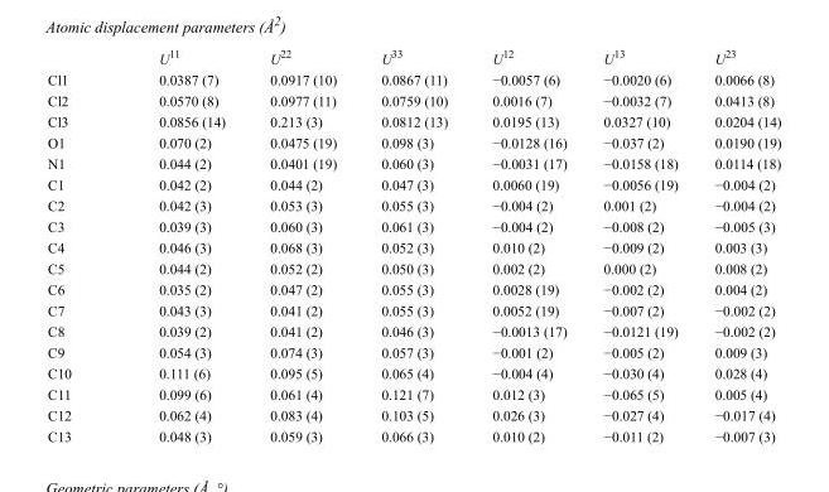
<table><thead><tr><td></td><td>U<sup>11</sup></td><td>U<sup>22</sup></td><td>U<sup>33</sup></td><td>U<sup>12</sup></td><td>U<sup>13</sup></td><td>U<sup>23</sup></td></tr></thead><tbody><tr><td>Cl1</td><td>0.0387 (7)</td><td>0.0917 (10)</td><td>0.0867 (11)</td><td>−0.0057 (6)</td><td>−0.0020 (6)</td><td>0.0066 (8)</td></tr><tr><td>Cl2</td><td>0.0570 (8)</td><td>0.0977 (11)</td><td>0.0759 (10)</td><td>0.0016 (7)</td><td>−0.0032 (7)</td><td>0.0413 (8)</td></tr><tr><td>Cl3</td><td>0.0856 (14)</td><td>0.213 (3)</td><td>0.0812 (13)</td><td>0.0195 (13)</td><td>0.0327 (10)</td><td>0.0204 (14)</td></tr><tr><td>O1</td><td>0.070 (2)</td><td>0.0475 (19)</td><td>0.098 (3)</td><td>−0.0128 (16)</td><td>−0.037 (2)</td><td>0.0190 (19)</td></tr><tr><td>N1</td><td>0.044 (2)</td><td>0.0401 (19)</td><td>0.060 (3)</td><td>−0.0031 (17)</td><td>−0.0158 (18)</td><td>0.0114 (18)</td></tr><tr><td>C1</td><td>0.042 (2)</td><td>0.044 (2)</td><td>0.047 (3)</td><td>0.0060 (19)</td><td>−0.0056 (19)</td><td>−0.004 (2)</td></tr><tr><td>C2</td><td>0.042 (3)</td><td>0.053 (3)</td><td>0.055 (3)</td><td>−0.004 (2)</td><td>0.001 (2)</td><td>−0.004 (2)</td></tr><tr><td>C3</td><td>0.039 (3)</td><td>0.060 (3)</td><td>0.061 (3)</td><td>−0.004 (2)</td><td>−0.008 (2)</td><td>−0.005 (3)</td></tr><tr><td>C4</td><td>0.046 (3)</td><td>0.068 (3)</td><td>0.052 (3)</td><td>0.010 (2)</td><td>−0.009 (2)</td><td>0.003 (3)</td></tr><tr><td>C5</td><td>0.044 (2)</td><td>0.052 (2)</td><td>0.050 (3)</td><td>0.002 (2)</td><td>0.000 (2)</td><td>0.008 (2)</td></tr><tr><td>C6</td><td>0.035 (2)</td><td>0.047 (2)</td><td>0.055 (3)</td><td>0.0028 (19)</td><td>−0.002 (2)</td><td>0.004 (2)</td></tr><tr><td>C7</td><td>0.043 (3)</td><td>0.041 (2)</td><td>0.055 (3)</td><td>0.0052 (19)</td><td>−0.007 (2)</td><td>−0.002 (2)</td></tr><tr><td>C8</td><td>0.039 (2)</td><td>0.041 (2)</td><td>0.046 (3)</td><td>−0.0013 (17)</td><td>−0.0121 (19)</td><td>−0.002 (2)</td></tr><tr><td>C9</td><td>0.054 (3)</td><td>0.074 (3)</td><td>0.057 (3)</td><td>−0.001 (2)</td><td>−0.005 (2)</td><td>0.009 (3)</td></tr><tr><td>C10</td><td>0.111 (6)</td><td>0.095 (5)</td><td>0.065 (4)</td><td>−0.004 (4)</td><td>−0.030 (4)</td><td>0.028 (4)</td></tr><tr><td>C11</td><td>0.099 (6)</td><td>0.061 (4)</td><td>0.121 (7)</td><td>0.012 (3)</td><td>−0.065 (5)</td><td>0.005 (4)</td></tr><tr><td>C12</td><td>0.062 (4)</td><td>0.083 (4)</td><td>0.103 (5)</td><td>0.026 (3)</td><td>−0.027 (4)</td><td>−0.017 (4)</td></tr><tr><td>C13</td><td>0.048 (3)</td><td>0.059 (3)</td><td>0.066 (3)</td><td>0.010 (2)</td><td>−0.011 (2)</td><td>−0.007 (3)</td></tr></tbody></table>